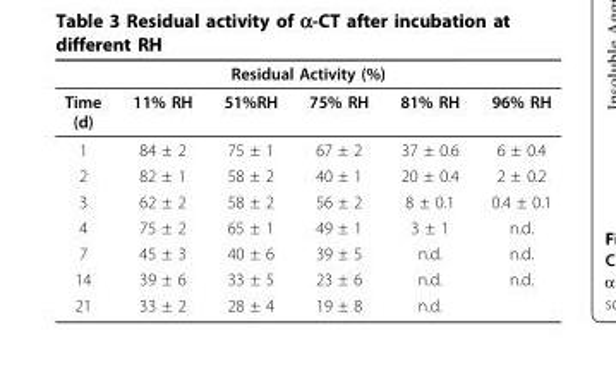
<table><thead><tr><td colspan="6">Residual Activity (%)</td></tr><tr><td>Time (d)</td><td>11% RH</td><td>51%RH</td><td>75% RH</td><td>81% RH</td><td>96% RH</td></tr></thead><tbody><tr><td>1</td><td>84 ± 2</td><td>75 ± 1</td><td>67 ± 2</td><td>37 ± 0.6</td><td>6 ± 0.4</td></tr><tr><td>2</td><td>82 ± 1</td><td>58 ± 2</td><td>40 ± 1</td><td>20 ± 0.4</td><td>2 ± 0.2</td></tr><tr><td>3</td><td>62 ± 2</td><td>58 ± 2</td><td>56 ± 2</td><td>8 ± 0.1</td><td>0.4 ± 0.1</td></tr><tr><td>4</td><td>75 ± 2</td><td>65 ± 1</td><td>49 ± 1</td><td>3 ± 1</td><td>n.d.</td></tr><tr><td>7</td><td>45 ± 3</td><td>40 ± 6</td><td>39 ± 5</td><td>n.d.</td><td>n.d.</td></tr><tr><td>14</td><td>39 ± 6</td><td>33 ± 5</td><td>23 ± 6</td><td>n.d.</td><td>n.d.</td></tr><tr><td>21</td><td>33 ± 2</td><td>28 ± 4</td><td>19 ± 8</td><td>n.d.</td><td></td></tr></tbody></table>